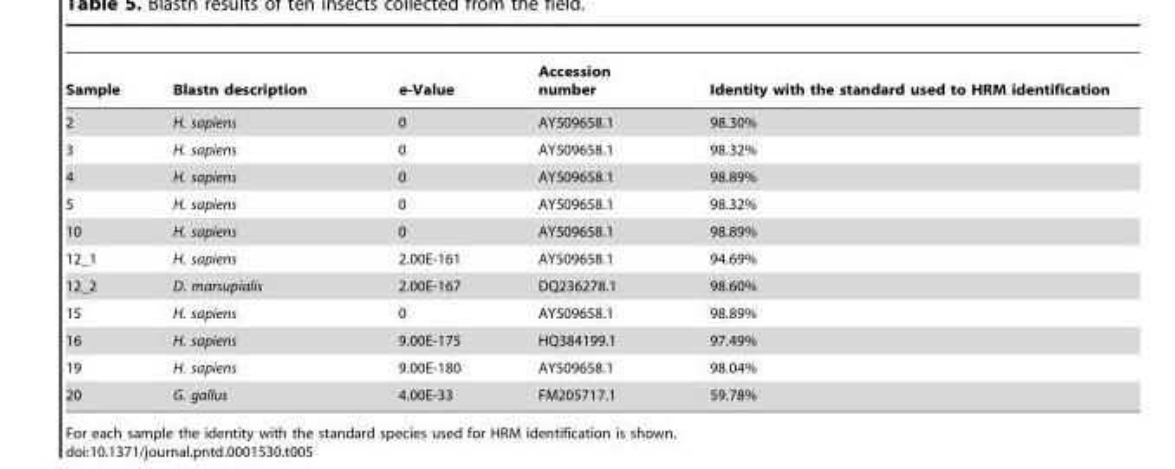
<table><thead><tr><td>Sample</td><td>Blastn description</td><td>e-Value</td><td>Accession number</td><td>Identity with the standard used to HRM identification</td></tr></thead><tbody><tr><td>2</td><td>H. sapiens</td><td>0</td><td>AY509658.1</td><td>98.30%</td></tr><tr><td>3</td><td>H. sapiens</td><td>0</td><td>AY509658.1</td><td>98.32%</td></tr><tr><td>4</td><td>H. sapiens</td><td>0</td><td>AY509658.1</td><td>98.89%</td></tr><tr><td>5</td><td>H. sapiens</td><td>0</td><td>AY509658.1</td><td>98.32%</td></tr><tr><td>10</td><td>H. sapiens</td><td>0</td><td>AY509658.1</td><td>98.89%</td></tr><tr><td>12_1</td><td>H. sapiens</td><td>2.00E-161</td><td>AY509658.1</td><td>94.69%</td></tr><tr><td>12_2</td><td>D. marsupialis</td><td>2.00E-167</td><td>DQ236278.1</td><td>98.60%</td></tr><tr><td>15</td><td>H. sapiens</td><td>0</td><td>AY509658.1</td><td>98.89%</td></tr><tr><td>16</td><td>H. sapiens</td><td>9.00E-175</td><td>HQ384199.1</td><td>97.49%</td></tr><tr><td>19</td><td>H. sapiens</td><td>9.00E-180</td><td>AY509658.1</td><td>98.04%</td></tr><tr><td>20</td><td>G. gallus</td><td>4.00E-33</td><td>FM205717.1</td><td>59.78%</td></tr></tbody></table>